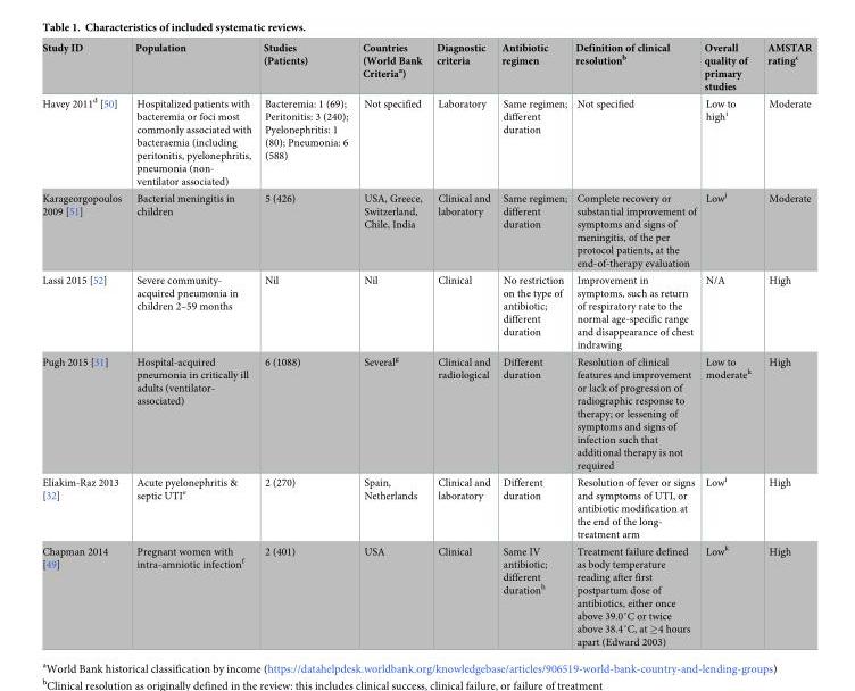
<table><thead><tr><td>Study ID</td><td>Population</td><td>Studies (Patients)</td><td>Countries (World Bank Criteria<sup>a</sup>)</td><td>Diagnostic criteria</td><td>Antibiotic regimen</td><td>Definition of clinical resolution<sup>b</sup></td><td>Overall quality of primary studies</td><td>AMSTAR rating<sup>c</sup></td></tr></thead><tbody><tr><td>Havey 2011<sup>d</sup> [50]</td><td>Hospitalized patients with bacteremia or foci most commonly associated with bacteraemia (including peritonitis, pyelonephritis, pneumonia (non- ventilator associated)</td><td>Bacteremia: 1 (69); Peritonitis: 3 (240); Pyelonephritis: 1 (80); Pneumonia: 6 (588)</td><td>Not specified</td><td>Laboratory</td><td>Same regimen; different duration</td><td>Not specified</td><td>Low to high<sup>i</sup></td><td>Moderate</td></tr><tr><td>Karageorgopoulos 2009 [51]</td><td>Bacterial meningitis in children</td><td>5 (426)</td><td>USA, Greece, Switzerland, Chile, India</td><td>Clinical and laboratory</td><td>Same regimen; different duration</td><td>Complete recovery or substantial improvement of symptoms and signs of meningitis, of the per protocol patients, at the end-of-therapy evaluation</td><td>Low<sup>j</sup></td><td>Moderate</td></tr><tr><td>Lassi 2015 [52]</td><td>Severe community- acquired pneumonia in children 2–59 months</td><td>Nil</td><td>Nil</td><td>Clinical</td><td>No restriction on the type of antibiotic; different duration</td><td>Improvement in symptoms, such as return of respiratory rate to the normal age-specific range and disappearance of chest indrawing</td><td>N/A</td><td>High</td></tr><tr><td>Pugh 2015 [31]</td><td>Hospital-acquired pneumonia in critically ill adults (ventilator- associated)</td><td>6 (1088)</td><td>Several<sup>g</sup></td><td>Clinical and radiological</td><td>Different duration</td><td>Resolution of clinical features and improvement or lack of progression of radiographic response to therapy; or lessening of symptoms and signs of infection such that additional therapy is not required</td><td>Low to moderate<sup>k</sup></td><td>High</td></tr><tr><td>Eliakim-Raz 2013 [32]</td><td>Acute pyelonephritis &amp; septic UTI<sup>e</sup></td><td>2 (270)</td><td>Spain, Netherlands</td><td>Clinical and laboratory</td><td>Different duration</td><td>Resolution of fever or signs and symptoms of UTI, or antibiotic modification at the end of the long- treatment arm</td><td>Low<sup>i</sup></td><td>High</td></tr><tr><td>Chapman 2014 [49]</td><td>Pregnant women with intra-amniotic infection<sup>f</sup></td><td>2 (401)</td><td>USA</td><td>Clinical</td><td>Same IV antibiotic; different duration<sup>h</sup></td><td>Treatment failure defined as body temperature reading after first postpartum dose of antibiotics, either once above 39.0˚C or twice above 38.4˚C, at ≥4 hours apart (Edward 2003)</td><td>Low<sup>k</sup></td><td>High</td></tr></tbody></table>